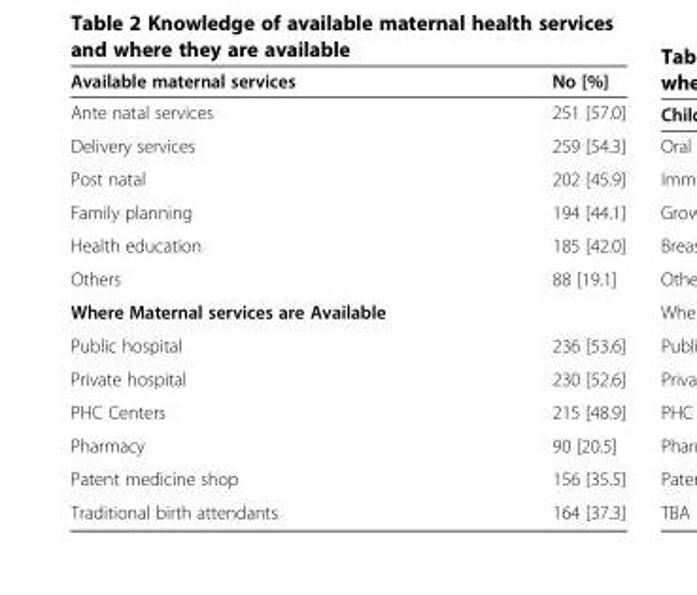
<table><thead><tr><td>Available maternal services</td><td>No [%]</td></tr></thead><tbody><tr><td>Ante natal services</td><td>251 [57.0]</td></tr><tr><td>Delivery services</td><td>259 [54.3]</td></tr><tr><td>Post natal</td><td>202 [45.9]</td></tr><tr><td>Family planning</td><td>194 [44.1]</td></tr><tr><td>Health education</td><td>185 [42.0]</td></tr><tr><td>Others</td><td>88 [19.1]</td></tr><tr><td colspan="2">Where Maternal services are Available</td></tr><tr><td>Public hospital</td><td>236 [53.6]</td></tr><tr><td>Private hospital</td><td>230 [52.6]</td></tr><tr><td>PHC Centers</td><td>215 [48.9]</td></tr><tr><td>Pharmacy</td><td>90 [20.5]</td></tr><tr><td>Patent medicine shop</td><td>156 [35.5]</td></tr><tr><td>Traditional birth attendants</td><td>164 [37.3]</td></tr></tbody></table>